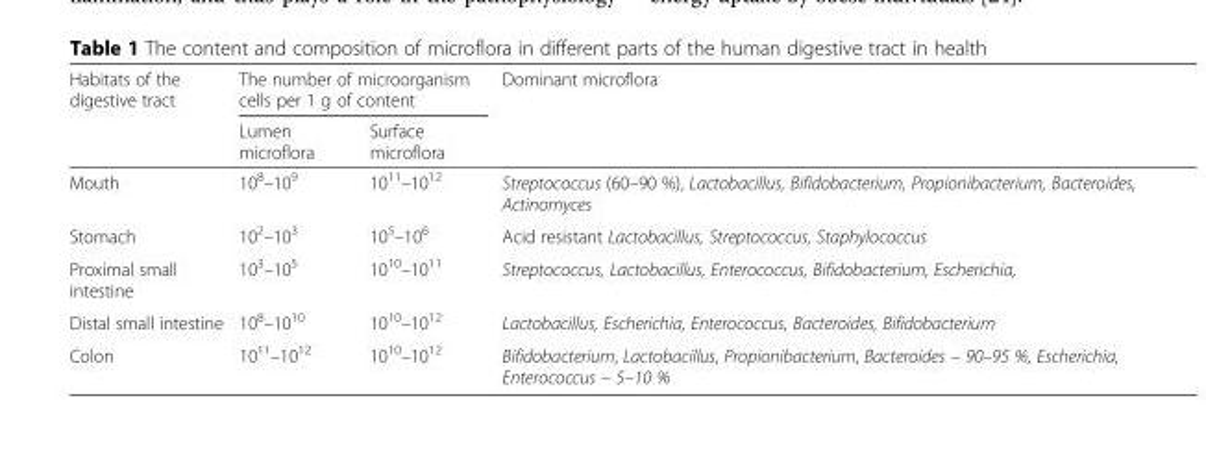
<table><thead><tr><td rowspan="2">Habitats of the digestive tract</td><td colspan="2">The number of microorganism cells per 1 g of content</td><td rowspan="2">Dominant microflora</td></tr><tr><td>Lumen microflora</td><td>Surface microflora</td></tr></thead><tbody><tr><td>Mouth</td><td>10<sup>8</sup>–10<sup>9</sup></td><td>10<sup>11</sup>–10<sup>12</sup></td><td>Streptococcus (60–90 %), Lactobacillus, Bifidobacterium, Propionibacterium, Bacteroides, Actinomyces</td></tr><tr><td>Stomach</td><td>10<sup>2</sup>–10<sup>3</sup></td><td>10<sup>5</sup>–10<sup>6</sup></td><td>Acid resistant Lactobacillus, Streptococcus, Staphylococcus</td></tr><tr><td>Proximal small intestine</td><td>10<sup>3</sup>–10<sup>5</sup></td><td>10<sup>10</sup>–10<sup>11</sup></td><td>Streptococcus, Lactobacillus, Enterococcus, Bifidobacterium, Escherichia,</td></tr><tr><td>Distal small intestine</td><td>10<sup>8</sup>–10<sup>10</sup></td><td>10<sup>10</sup>–10<sup>12</sup></td><td>Lactobacillus, Escherichia, Enterococcus, Bacteroides, Bifidobacterium</td></tr><tr><td>Colon</td><td>10<sup>11</sup>–10<sup>12</sup></td><td>10<sup>10</sup>–10<sup>12</sup></td><td>Bifidobacterium, Lactobacillus, Propionibacterium, Bacteroides – 90–95 %, Escherichia, Enterococcus – 5–10 %</td></tr></tbody></table>